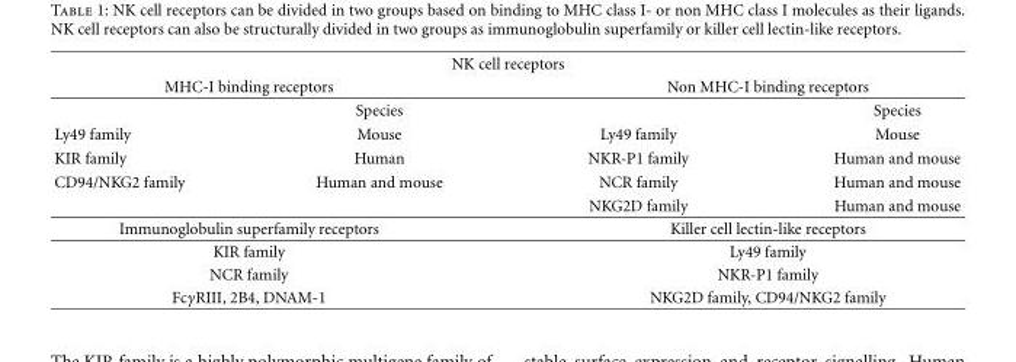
<table><thead><tr><td colspan="4">NK cell receptors</td></tr><tr><td colspan="2">MHC-I binding receptors</td><td colspan="2">Non MHC-I binding receptors</td></tr><tr><td></td><td>Species</td><td></td><td>Species</td></tr></thead><tbody><tr><td>Ly49 family</td><td>Mouse</td><td>Ly49 family</td><td>Mouse</td></tr><tr><td>KIR family</td><td>Human</td><td>NKR-P1 family</td><td>Human and mouse</td></tr><tr><td rowspan="2">CD94/NKG2 family</td><td>Human and mouse</td><td>NCR family</td><td>Human and mouse</td></tr><tr><td></td><td>NKG2D family</td><td>Human and mouse</td></tr><tr><td colspan="2">Immunoglobulin superfamily receptors</td><td colspan="2">Killer cell lectin-like receptors</td></tr><tr><td colspan="2">KIR family</td><td colspan="2">Ly49 family</td></tr><tr><td colspan="2">NCR family</td><td colspan="2">NKR-P1 family</td></tr><tr><td colspan="2">FcγRIII, 2B4, DNAM-1</td><td colspan="2">NKG2D family, CD94/NKG2 family</td></tr></tbody></table>